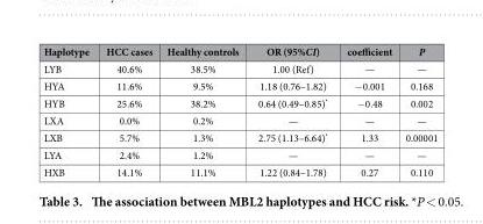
<table><thead><tr><td>Haplotype</td><td>HCC cases</td><td>Healthy controls</td><td>OR (95%CI)</td><td>coefficient</td><td>P</td></tr></thead><tbody><tr><td>LYB</td><td>40.6%</td><td>38.5%</td><td>1.00 (Ref)</td><td>—</td><td>—</td></tr><tr><td>HYA</td><td>11.6%</td><td>9.5%</td><td>1.18 (0.76–1.82)</td><td>− 0.001</td><td>0.168</td></tr><tr><td>HYB</td><td>25.6%</td><td>38.2%</td><td>0.64 (0.49–0.85)*</td><td>− 0.48</td><td>0.002</td></tr><tr><td>LXA</td><td>0.0%</td><td>0.2%</td><td>—</td><td>—</td><td>—</td></tr><tr><td>LXB</td><td>5.7%</td><td>1.3%</td><td>2.75 (1.13–6.64)*</td><td>1.33</td><td>0.00001</td></tr><tr><td>LYA</td><td>2.4%</td><td>1.2%</td><td>—</td><td>—</td><td>—</td></tr><tr><td>HXB</td><td>14.1%</td><td>11.1%</td><td>1.22 (0.84–1.78)</td><td>0.27</td><td>0.110</td></tr></tbody></table>